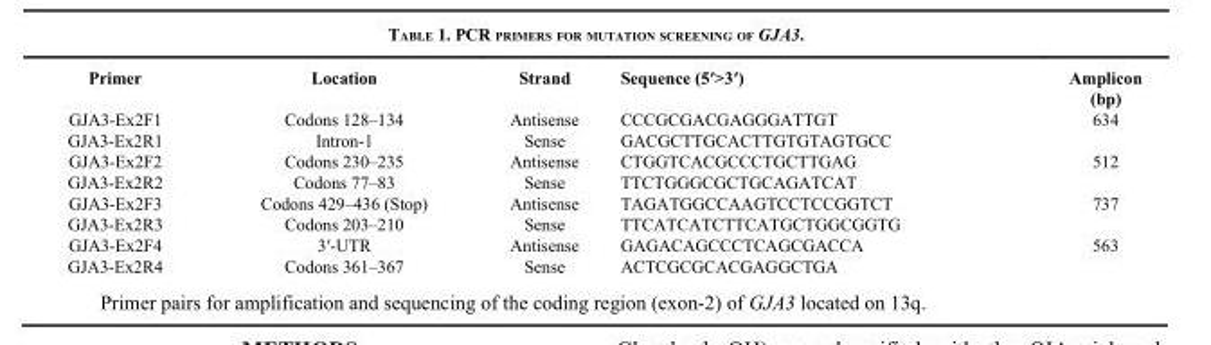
<table><thead><tr><td>Primer</td><td>Location</td><td>Strand</td><td>Sequence (5′&gt;3′)</td><td>Amplicon (bp)</td></tr></thead><tbody><tr><td>GJA3-Ex2F1</td><td>Codons 128–134</td><td>Antisense</td><td>CCCGCGACGAGGGATTGT</td><td>634</td></tr><tr><td>GJA3-Ex2R1</td><td>Intron-1</td><td>Sense</td><td>GACGCTTGCACTTGTGTAGTGCC</td><td></td></tr><tr><td>GJA3-Ex2F2</td><td>Codons 230–235</td><td>Antisense</td><td>CTGGTCACGCCCTGCTTGAG</td><td>512</td></tr><tr><td>GJA3-Ex2R2</td><td>Codons 77–83</td><td>Sense</td><td>TTCTGGGCGCTGCAGATCAT</td><td></td></tr><tr><td>GJA3-Ex2F3</td><td>Codons 429–436 (Stop)</td><td>Antisense</td><td>TAGATGGCCAAGTCCTCCGGTCT</td><td>737</td></tr><tr><td>GJA3-Ex2R3</td><td>Codons 203–210</td><td>Sense</td><td>TTCATCATCTTCATGCTGGCGGTG</td><td></td></tr><tr><td>GJA3-Ex2F4</td><td>3′-UTR</td><td>Antisense</td><td>GAGACAGCCCTCAGCGACCA</td><td>563</td></tr><tr><td>GJA3-Ex2R4</td><td>Codons 361–367</td><td>Sense</td><td>ACTCGCGCACGAGGCTGA</td><td></td></tr></tbody></table>